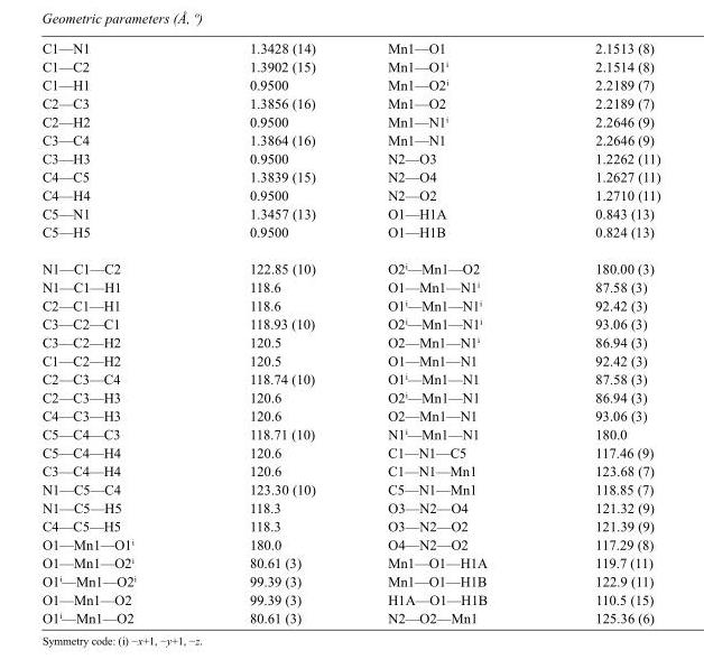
<table><tbody><tr><td>C1—N1</td><td>1.3428 (14)</td><td>Mn1—O1</td><td>2.1513 (8)</td></tr><tr><td>C1—C2</td><td>1.3902 (15)</td><td>Mn1—O1<sup>i</sup></td><td>2.1514 (8)</td></tr><tr><td>C1—H1</td><td>0.9500</td><td>Mn1—O2<sup>i</sup></td><td>2.2189 (7)</td></tr><tr><td>C2—C3</td><td>1.3856 (16)</td><td>Mn1—O2</td><td>2.2189 (7)</td></tr><tr><td>C2—H2</td><td>0.9500</td><td>Mn1—N1<sup>i</sup></td><td>2.2646 (9)</td></tr><tr><td>C3—C4</td><td>1.3864 (16)</td><td>Mn1—N1</td><td>2.2646 (9)</td></tr><tr><td>C3—H3</td><td>0.9500</td><td>N2—O3</td><td>1.2262 (11)</td></tr><tr><td>C4—C5</td><td>1.3839 (15)</td><td>N2—O4</td><td>1.2627 (11)</td></tr><tr><td>C4—H4</td><td>0.9500</td><td>N2—O2</td><td>1.2710 (11)</td></tr><tr><td>C5—N1</td><td>1.3457 (13)</td><td>O1—H1A</td><td>0.843 (13)</td></tr><tr><td>C5—H5</td><td>0.9500</td><td>O1—H1B</td><td>0.824 (13)</td></tr><tr><td>N1—C1—C2</td><td>122.85 (10)</td><td>O2<sup>i</sup>—Mn1—O2</td><td>180.00 (3)</td></tr><tr><td>N1—C1—H1</td><td>118.6</td><td>O1—Mn1—N1<sup>i</sup></td><td>87.58 (3)</td></tr><tr><td>C2—C1—H1</td><td>118.6</td><td>O1<sup>i</sup>—Mn1—N1<sup>i</sup></td><td>92.42 (3)</td></tr><tr><td>C3—C2—C1</td><td>118.93 (10)</td><td>O2<sup>i</sup>—Mn1—N1<sup>i</sup></td><td>93.06 (3)</td></tr><tr><td>C3—C2—H2</td><td>120.5</td><td>O2—Mn1—N1<sup>i</sup></td><td>86.94 (3)</td></tr><tr><td>C1—C2—H2</td><td>120.5</td><td>O1—Mn1—N1</td><td>92.42 (3)</td></tr><tr><td>C2—C3—C4</td><td>118.74 (10)</td><td>O1<sup>i</sup>—Mn1—N1</td><td>87.58 (3)</td></tr><tr><td>C2—C3—H3</td><td>120.6</td><td>O2<sup>i</sup>—Mn1—N1</td><td>86.94 (3)</td></tr><tr><td>C4—C3—H3</td><td>120.6</td><td>O2—Mn1—N1</td><td>93.06 (3)</td></tr><tr><td>C5—C4—C3</td><td>118.71 (10)</td><td>N1<sup>i</sup>—Mn1—N1</td><td>180.0</td></tr><tr><td>C5—C4—H4</td><td>120.6</td><td>C1—N1—C5</td><td>117.46 (9)</td></tr><tr><td>C3—C4—H4</td><td>120.6</td><td>C1—N1—Mn1</td><td>123.68 (7)</td></tr><tr><td>N1—C5—C4</td><td>123.30 (10)</td><td>C5—N1—Mn1</td><td>118.85 (7)</td></tr><tr><td>N1—C5—H5</td><td>118.3</td><td>O3—N2—O4</td><td>121.32 (9)</td></tr><tr><td>C4—C5—H5</td><td>118.3</td><td>O3—N2—O2</td><td>121.39 (9)</td></tr><tr><td>O1—Mn1—O1<sup>i</sup></td><td>180.0</td><td>O4—N2—O2</td><td>117.29 (8)</td></tr><tr><td>O1—Mn1—O2<sup>i</sup></td><td>80.61 (3)</td><td>Mn1—O1—H1A</td><td>119.7 (11)</td></tr><tr><td>O1<sup>i</sup>—Mn1—O2<sup>i</sup></td><td>99.39 (3)</td><td>Mn1—O1—H1B</td><td>122.9 (11)</td></tr><tr><td>O1—Mn1—O2</td><td>99.39 (3)</td><td>H1A—O1—H1B</td><td>110.5 (15)</td></tr><tr><td>O1<sup>i</sup>—Mn1—O2</td><td>80.61 (3)</td><td>N2—O2—Mn1</td><td>125.36 (6)</td></tr></tbody></table>